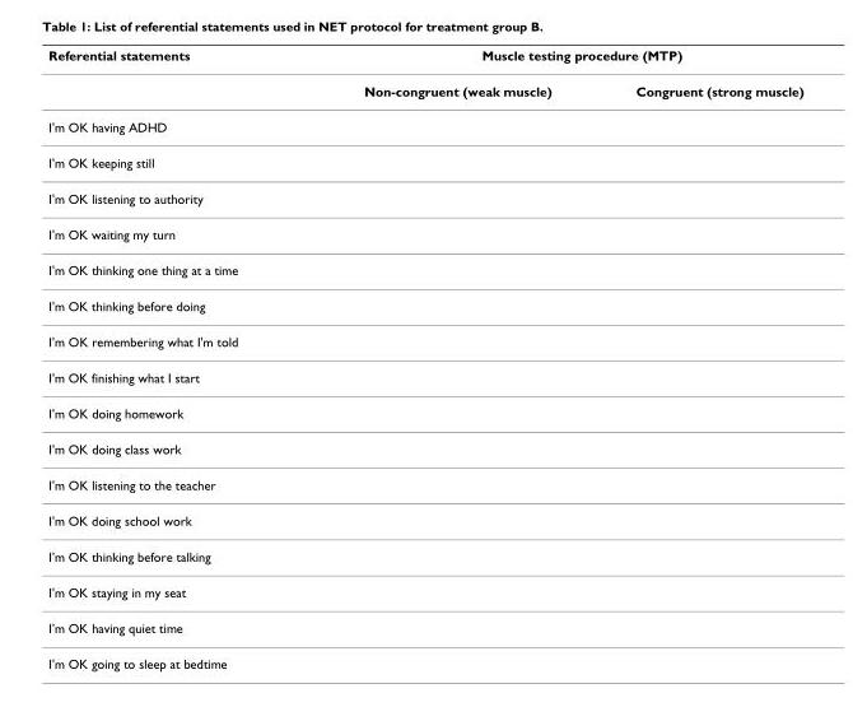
<table><thead><tr><td rowspan="2">Referential statements</td><td colspan="2">Muscle testing procedure (MTP)</td></tr><tr><td>Non-congruent (weak muscle)</td><td>Congruent (strong muscle)</td></tr></thead><tbody><tr><td colspan="3">I&#x27;m OK having ADHD</td></tr><tr><td colspan="3">I&#x27;m OK keeping still</td></tr><tr><td colspan="3">I&#x27;m OK listening to authority</td></tr><tr><td colspan="3">I&#x27;m OK waiting my turn</td></tr><tr><td colspan="3">I&#x27;m OK thinking one thing at a time</td></tr><tr><td colspan="3">I&#x27;m OK thinking before doing</td></tr><tr><td colspan="3">I&#x27;m OK remembering what I&#x27;m told</td></tr><tr><td colspan="3">I&#x27;m OK finishing what I start</td></tr><tr><td colspan="3">I&#x27;m OK doing homework</td></tr><tr><td colspan="3">I&#x27;m OK doing class work</td></tr><tr><td colspan="3">I&#x27;m OK listening to the teacher</td></tr><tr><td colspan="3">I&#x27;m OK doing school work</td></tr><tr><td colspan="3">I&#x27;m OK thinking before talking</td></tr><tr><td colspan="3">I&#x27;m OK staying in my seat</td></tr><tr><td colspan="3">I&#x27;m OK having quiet time</td></tr><tr><td>I&#x27;m OK going to sleep at bedtime</td><td></td><td></td></tr></tbody></table>